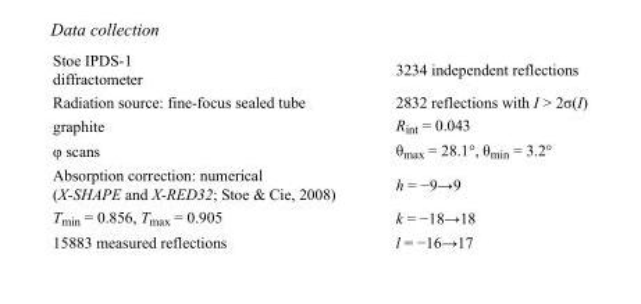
<table><tbody><tr><td>Stoe IPDS-1 diffractometer</td><td>3234 independent reflections</td></tr><tr><td>Radiation source: fine-focus sealed tube</td><td>2832 reflections with I &gt; 2σ(I)</td></tr><tr><td>graphite</td><td>R<sub>int</sub> = 0.043</td></tr><tr><td>φ scans</td><td>θ<sub>max</sub> = 28.1°, θ<sub>min</sub> = 3.2°</td></tr><tr><td>Absorption correction: numerical (X-SHAPE and X-RED32; Stoe &amp; Cie, 2008)</td><td>h = −9→9</td></tr><tr><td>T<sub>min</sub> = 0.856, T<sub>max</sub> = 0.905</td><td>k = −18→18</td></tr><tr><td>15883 measured reflections</td><td>l = −16→17</td></tr></tbody></table>